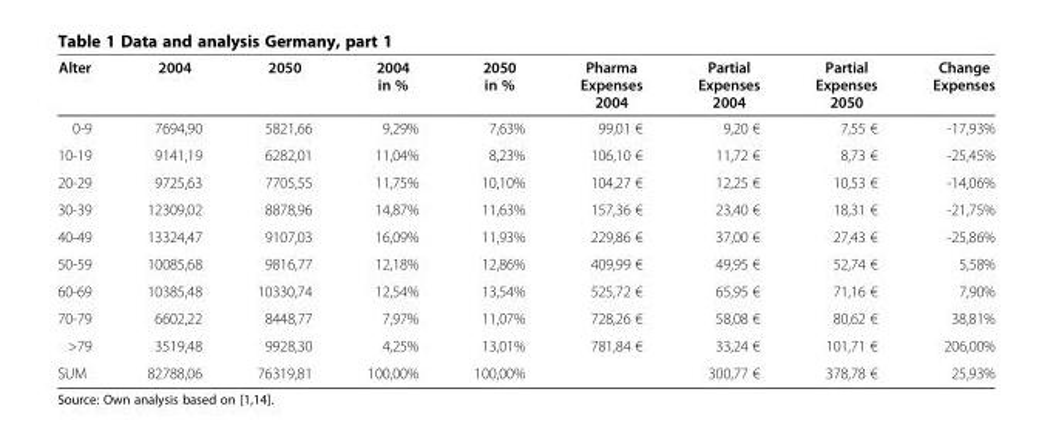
<table><thead><tr><td>Alter</td><td>2004</td><td>2050</td><td>2004 in %</td><td>2050 in %</td><td>Pharma Expenses 2004</td><td>Partial Expenses 2004</td><td>Partial Expenses 2050</td><td>Change Expenses</td></tr></thead><tbody><tr><td>0-9</td><td>7694,90</td><td>5821,66</td><td>9,29%</td><td>7,63%</td><td>99,01 €</td><td>9,20 €</td><td>7,55 €</td><td>-17,93%</td></tr><tr><td>10-19</td><td>9141,19</td><td>6282,01</td><td>11,04%</td><td>8,23%</td><td>106,10 €</td><td>11,72 €</td><td>8,73 €</td><td>-25,45%</td></tr><tr><td>20-29</td><td>9725,63</td><td>7705,55</td><td>11,75%</td><td>10,10%</td><td>104,27 €</td><td>12,25 €</td><td>10,53 €</td><td>-14,06%</td></tr><tr><td>30-39</td><td>12309,02</td><td>8878,96</td><td>14,87%</td><td>11,63%</td><td>157,36 €</td><td>23,40 €</td><td>18,31 €</td><td>-21,75%</td></tr><tr><td>40-49</td><td>13324,47</td><td>9107,03</td><td>16,09%</td><td>11,93%</td><td>229,86 €</td><td>37,00 €</td><td>27,43 €</td><td>-25,86%</td></tr><tr><td>50-59</td><td>10085,68</td><td>9816,77</td><td>12,18%</td><td>12,86%</td><td>409,99 €</td><td>49,95 €</td><td>52,74 €</td><td>5,58%</td></tr><tr><td>60-69</td><td>10385,48</td><td>10330,74</td><td>12,54%</td><td>13,54%</td><td>525,72 €</td><td>65,95 €</td><td>71,16 €</td><td>7,90%</td></tr><tr><td>70-79</td><td>6602,22</td><td>8448,77</td><td>7,97%</td><td>11,07%</td><td>728,26 €</td><td>58,08 €</td><td>80,62 €</td><td>38,81%</td></tr><tr><td>&gt;79</td><td>3519,48</td><td>9928,30</td><td>4,25%</td><td>13,01%</td><td>781,84 €</td><td>33,24 €</td><td>101,71 €</td><td>206,00%</td></tr><tr><td>SUM</td><td>82788,06</td><td>76319,81</td><td>100,00%</td><td>100,00%</td><td></td><td>300,77 €</td><td>378,78 €</td><td>25,93%</td></tr></tbody></table>